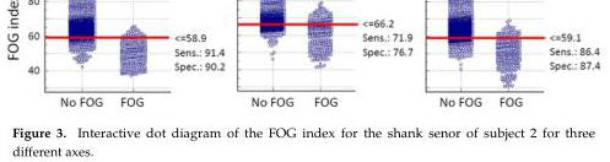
<table><thead><tr><td>Sensor Position</td><td>Sensitivity (%)</td><td>Specificity (%)</td><td>Area under ROC Curve</td></tr></thead><tbody><tr><td>Shank</td><td>84.9</td><td>81.0</td><td>0.890</td></tr><tr><td>Thigh</td><td>73.6</td><td>79.6</td><td>0.856</td></tr><tr><td>Lower back</td><td>83.5</td><td>67.2</td><td>0.821</td></tr></tbody></table>